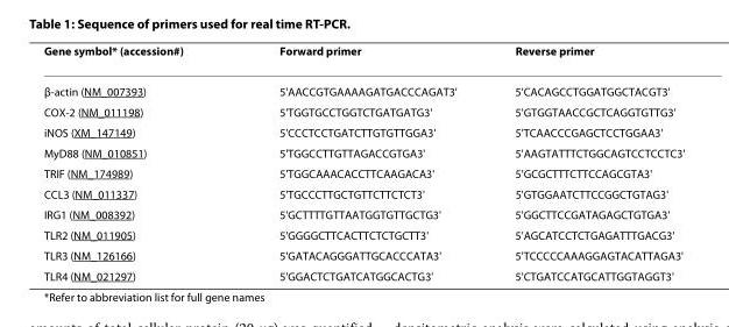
<table><thead><tr><td>Gene symbol* (accession#)</td><td>Forward primer</td><td>Reverse primer</td></tr></thead><tbody><tr><td>β-actin (NM_007393)</td><td>5&#x27;AACCGTGAAAAGATGACCCAGAT3&#x27;</td><td>5&#x27;CACAGCCTGGATGGCTACGT3&#x27;</td></tr><tr><td>COX-2 (NM_011198)</td><td>5&#x27;TGGTGCCTGGTCTGATGATG3&#x27;</td><td>5&#x27;GTGGTAACCGCTCAGGTGTTG3&#x27;</td></tr><tr><td>iNOS (XM_147149)</td><td>5&#x27;CCCTCCTGATCTTGTGTTGGA3&#x27;</td><td>5&#x27;TCAACCCGAGCTCCTGGAA3&#x27;</td></tr><tr><td>MyD88 (NM_010851)</td><td>5&#x27;TGGCCTTGTTAGACCGTGA3&#x27;</td><td>5&#x27;AAGTATTTCTGGCAGTCCTCCTC3&#x27;</td></tr><tr><td>TRIF (NM_174989)</td><td>5&#x27;TGGCAAACACCTTCAAGACA3&#x27;</td><td>5&#x27;GCGCTTTCTTCCAGCGTA3&#x27;</td></tr><tr><td>CCL3 (NM_011337)</td><td>5&#x27;TGCCCTTGCTGTTCTTCTCT3&#x27;</td><td>5&#x27;GTGGAATCTTCCGGCTGTAG3&#x27;</td></tr><tr><td>IRG1 (NM_008392)</td><td>5&#x27;GCTTTTGTTAATGGTGTTGCTG3&#x27;</td><td>5&#x27;GGCTTCCGATAGAGCTGTGA3&#x27;</td></tr><tr><td>TLR2 (NM_011905)</td><td>5&#x27;GGGGCTTCACTTCTCTGCTT3&#x27;</td><td>5&#x27;AGCATCCTCTGAGATTTGACG3&#x27;</td></tr><tr><td>TLR3 (NM_126166)</td><td>5&#x27;GATACAGGGATTGCACCCATA3&#x27;</td><td>5&#x27;TCCCCCAAAGGAGTACATTAGA3&#x27;</td></tr><tr><td>TLR4 (NM_021297)</td><td>5&#x27;GGACTCTGATCATGGCACTG3&#x27;</td><td>5&#x27;CTGATCCATGCATTGGTAGGT3&#x27;</td></tr></tbody></table>